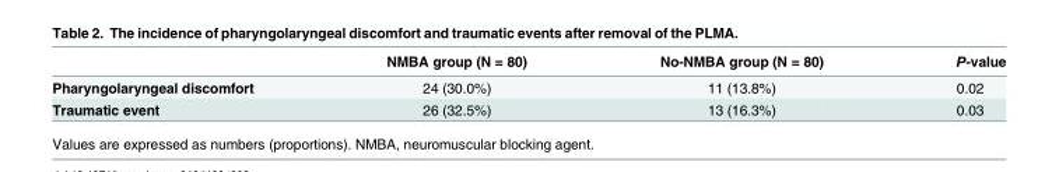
<table><thead><tr><td></td><td>NMBA group (N = 80)</td><td>No-NMBA group (N = 80)</td><td>P-value</td></tr></thead><tbody><tr><td>Pharyngolaryngeal discomfort</td><td>24 (30.0%)</td><td>11 (13.8%)</td><td>0.02</td></tr><tr><td>Traumatic event</td><td>26 (32.5%)</td><td>13 (16.3%)</td><td>0.03</td></tr></tbody></table>